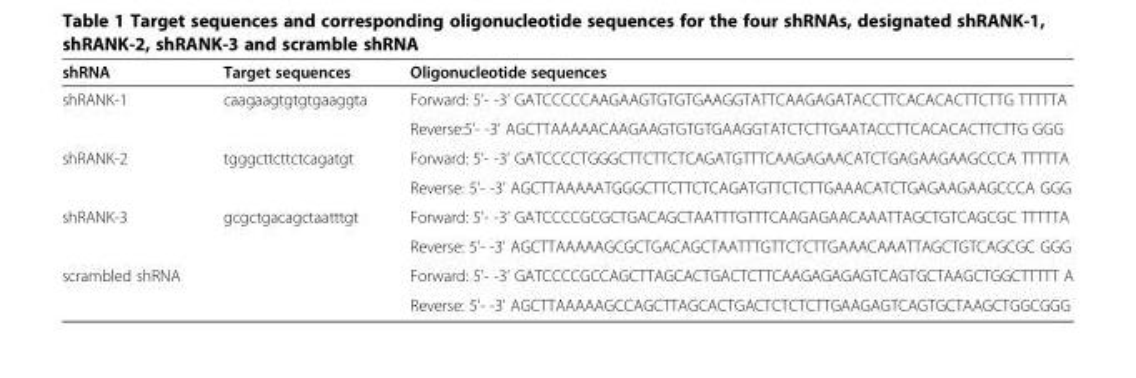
<table><thead><tr><td>shRNA</td><td>Target sequences</td><td>Oligonucleotide sequences</td></tr></thead><tbody><tr><td rowspan="2">shRANK-1</td><td>caagaagtgtgtgaaggta</td><td>Forward: 5’- -3’ GATCCCCCAAGAAGTGTGTGAAGGTATTCAAGAGATACCTTCACACACTTCTTG TTTTTA</td></tr><tr><td></td><td>Reverse:5’- -3’ AGCTTAAAAACAAGAAGTGTGTGAAGGTATCTCTTGAATACCTTCACACACTTCTTG GGG</td></tr><tr><td rowspan="2">shRANK-2</td><td>tgggcttcttctcagatgt</td><td>Forward: 5’- -3’ GATCCCCTGGGCTTCTTCTCAGATGTTTCAAGAGAACATCTGAGAAGAAGCCCA TTTTTA</td></tr><tr><td></td><td>Reverse: 5’- -3’ AGCTTAAAAATGGGCTTCTTCTCAGATGTTCTCTTGAAACATCTGAGAAGAAGCCCA GGG</td></tr><tr><td rowspan="2">shRANK-3</td><td>gcgctgacagctaatttgt</td><td>Forward: 5’- -3’ GATCCCCGCGCTGACAGCTAATTTGTTTCAAGAGAACAAATTAGCTGTCAGCGC TTTTTA</td></tr><tr><td></td><td>Reverse: 5’- -3’ AGCTTAAAAAGCGCTGACAGCTAATTTGTTCTCTTGAAACAAATTAGCTGTCAGCGC GGG</td></tr><tr><td rowspan="2">scrambled shRNA</td><td></td><td>Forward: 5’- -3’ GATCCCCGCCAGCTTAGCACTGACTCTTCAAGAGAGAGTCAGTGCTAAGCTGGCTTTTT A</td></tr><tr><td></td><td>Reverse: 5’- -3’ AGCTTAAAAAGCCAGCTTAGCACTGACTCTCTCTTGAAGAGTCAGTGCTAAGCTGGCGGG</td></tr></tbody></table>